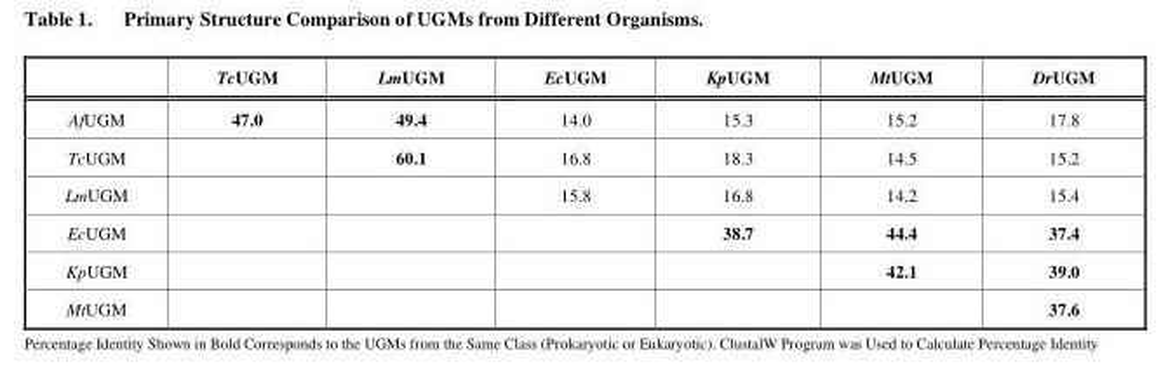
<table><thead><tr><td></td><td>TcUGM</td><td>LmUGM</td><td>EcUGM</td><td>KpUGM</td><td>MtUGM</td><td>DrUGM</td></tr></thead><tbody><tr><td>AfUGM</td><td>47.0</td><td>49.4</td><td>14.0</td><td>15.3</td><td>15.2</td><td>17.8</td></tr><tr><td>TcUGM</td><td></td><td>60.1</td><td>16.8</td><td>18.3</td><td>14.5</td><td>15.2</td></tr><tr><td>LmUGM</td><td></td><td></td><td>15.8</td><td>16.8</td><td>14.2</td><td>15.4</td></tr><tr><td>EcUGM</td><td></td><td></td><td></td><td>38.7</td><td>44.4</td><td>37.4</td></tr><tr><td>KpUGM</td><td></td><td></td><td></td><td></td><td>42.1</td><td>39.0</td></tr><tr><td>MtUGM</td><td></td><td></td><td></td><td></td><td></td><td>37.6</td></tr></tbody></table>